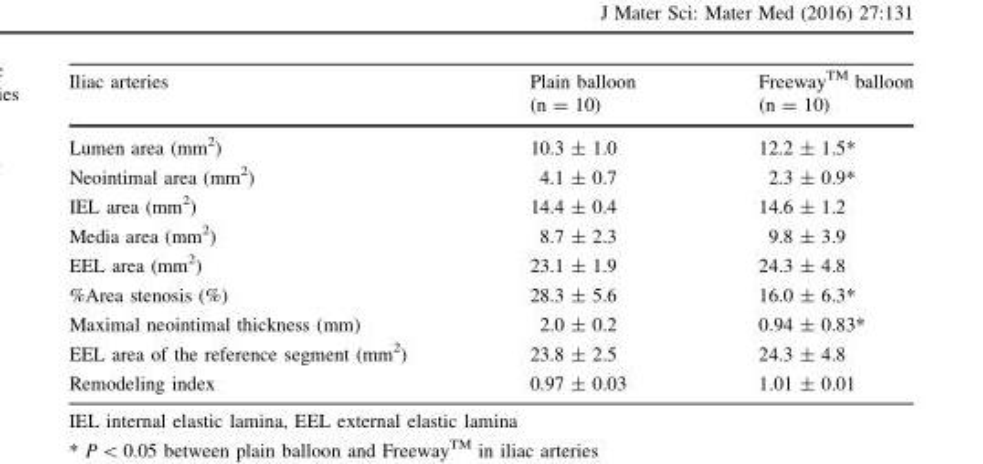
<table><thead><tr><td>Iliac arteries</td><td>Plain balloon (n = 10)</td><td>FreewayTM balloon (n = 10)</td></tr></thead><tbody><tr><td>Lumen area (mm<sup>2</sup>)</td><td>10.3 ± 1.0</td><td>12.2 ± 1.5*</td></tr><tr><td>Neointimal area (mm<sup>2</sup>)</td><td>4.1 ± 0.7</td><td>2.3 ± 0.9*</td></tr><tr><td>IEL area (mm<sup>2</sup>)</td><td>14.4 ± 0.4</td><td>14.6 ± 1.2</td></tr><tr><td>Media area (mm<sup>2</sup>)</td><td>8.7 ± 2.3</td><td>9.8 ± 3.9</td></tr><tr><td>EEL area (mm<sup>2</sup>)</td><td>23.1 ± 1.9</td><td>24.3 ± 4.8</td></tr><tr><td>%Area stenosis (%)</td><td>28.3 ± 5.6</td><td>16.0 ± 6.3*</td></tr><tr><td>Maximal neointimal thickness (mm)</td><td>2.0 ± 0.2</td><td>0.94 ± 0.83*</td></tr><tr><td>EEL area of the reference segment (mm<sup>2</sup>)</td><td>23.8 ± 2.5</td><td>24.3 ± 4.8</td></tr><tr><td>Remodeling index</td><td>0.97 ± 0.03</td><td>1.01 ± 0.01</td></tr></tbody></table>